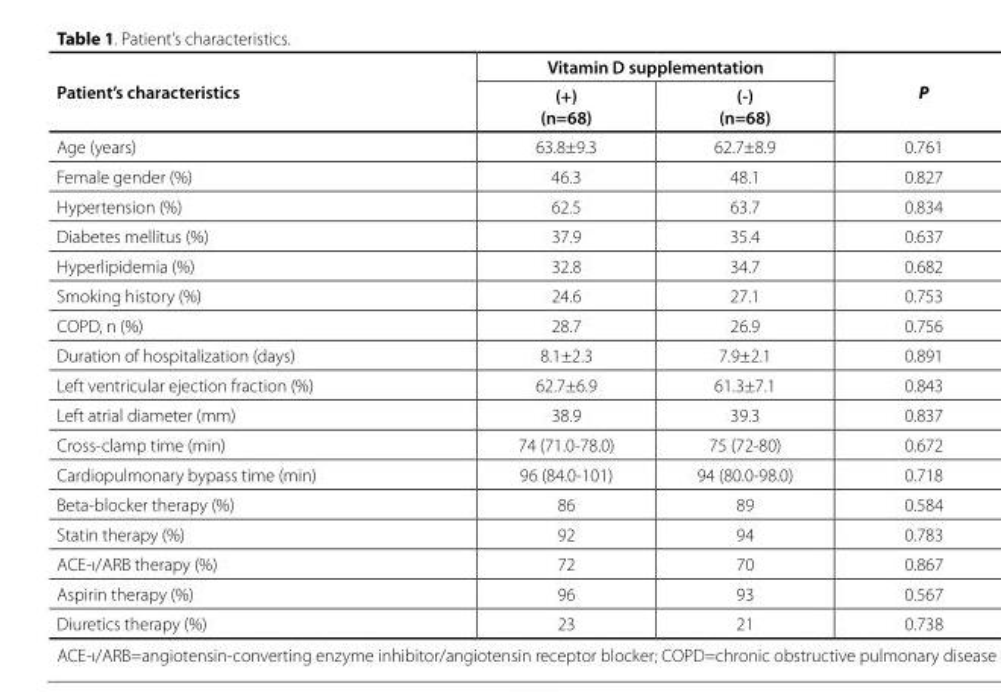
<table><thead><tr><td rowspan="2">Patient’s characteristics</td><td colspan="2">Vitamin D supplementation</td><td rowspan="2">P</td></tr><tr><td>(+) (n=68)</td><td>(-) (n=68)</td></tr></thead><tbody><tr><td>Age (years)</td><td>63.8±9.3</td><td>62.7±8.9</td><td>0.761</td></tr><tr><td>Female gender (%)</td><td>46.3</td><td>48.1</td><td>0.827</td></tr><tr><td>Hypertension (%)</td><td>62.5</td><td>63.7</td><td>0.834</td></tr><tr><td>Diabetes mellitus (%)</td><td>37.9</td><td>35.4</td><td>0.637</td></tr><tr><td>Hyperlipidemia (%)</td><td>32.8</td><td>34.7</td><td>0.682</td></tr><tr><td>Smoking history (%)</td><td>24.6</td><td>27.1</td><td>0.753</td></tr><tr><td>COPD, n (%)</td><td>28.7</td><td>26.9</td><td>0.756</td></tr><tr><td>Duration of hospitalization (days)</td><td>8.1±2.3</td><td>7.9±2.1</td><td>0.891</td></tr><tr><td>Left ventricular ejection fraction (%)</td><td>62.7±6.9</td><td>61.3±7.1</td><td>0.843</td></tr><tr><td>Left atrial diameter (mm)</td><td>38.9</td><td>39.3</td><td>0.837</td></tr><tr><td>Cross-clamp time (min)</td><td>74 (71.0-78.0)</td><td>75 (72-80)</td><td>0.672</td></tr><tr><td>Cardiopulmonary bypass time (min)</td><td>96 (84.0-101)</td><td>94 (80.0-98.0)</td><td>0.718</td></tr><tr><td>Beta-blocker therapy (%)</td><td>86</td><td>89</td><td>0.584</td></tr><tr><td>Statin therapy (%)</td><td>92</td><td>94</td><td>0.783</td></tr><tr><td>ACE-ı/ARB therapy (%)</td><td>72</td><td>70</td><td>0.867</td></tr><tr><td>Aspirin therapy (%)</td><td>96</td><td>93</td><td>0.567</td></tr><tr><td>Diuretics therapy (%)</td><td>23</td><td>21</td><td>0.738</td></tr></tbody></table>